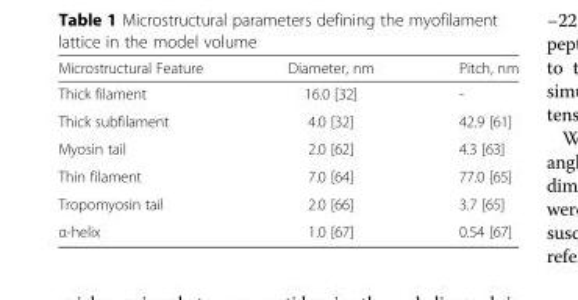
<table><thead><tr><td>Microstructural Feature</td><td>Diameter, nm</td><td>Pitch, nm</td></tr></thead><tbody><tr><td>Thick filament</td><td>16.0 [32]</td><td>-</td></tr><tr><td>Thick subfilament</td><td>4.0 [32]</td><td>42.9 [61]</td></tr><tr><td>Myosin tail</td><td>2.0 [62]</td><td>4.3 [63]</td></tr><tr><td>Thin filament</td><td>7.0 [64]</td><td>77.0 [65]</td></tr><tr><td>Tropomyosin tail</td><td>2.0 [66]</td><td>3.7 [65]</td></tr><tr><td>α-helix</td><td>1.0 [67]</td><td>0.54 [67]</td></tr></tbody></table>